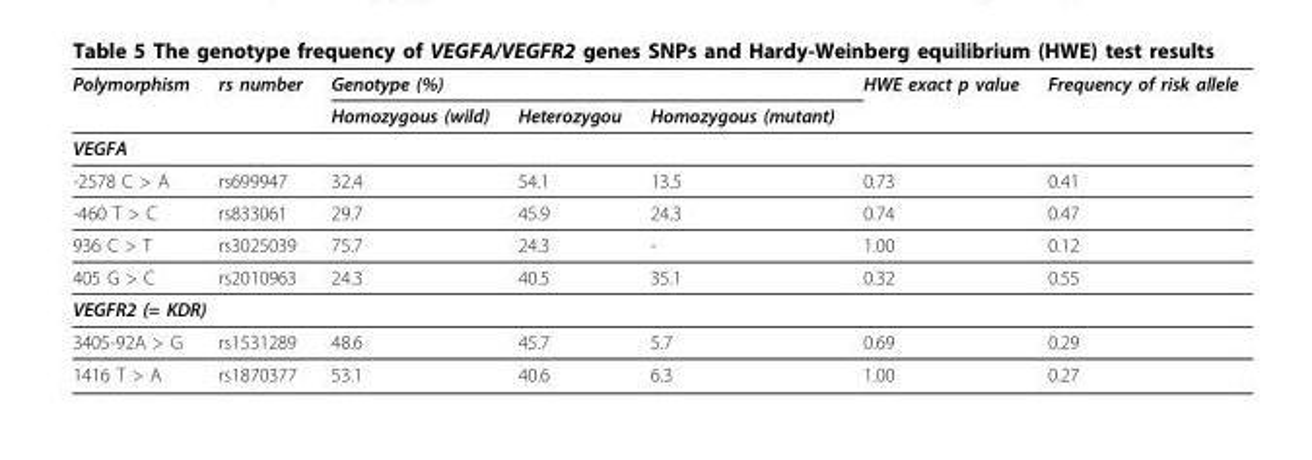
<table><thead><tr><td rowspan="2">Polymorphism</td><td rowspan="2">rs number</td><td colspan="3">Genotype (%)</td><td rowspan="2">HWE exact p value</td><td rowspan="2">Frequency of risk allele</td></tr><tr><td>Homozygous (wild)</td><td>Heterozygou</td><td>Homozygous (mutant)</td></tr></thead><tbody><tr><td colspan="7">VEGFA</td></tr><tr><td>-2578 C &gt; A</td><td>rs699947</td><td>32.4</td><td>54.1</td><td>13.5</td><td>0.73</td><td>0.41</td></tr><tr><td>-460 T &gt; C</td><td>rs833061</td><td>29.7</td><td>45.9</td><td>24.3</td><td>0.74</td><td>0.47</td></tr><tr><td>936 C &gt; T</td><td>rs3025039</td><td>75.7</td><td>24.3</td><td>-</td><td>1.00</td><td>0.12</td></tr><tr><td>405 G &gt; C</td><td>rs2010963</td><td>24.3</td><td>40.5</td><td>35.1</td><td>0.32</td><td>0.55</td></tr><tr><td colspan="7">VEGFR2 (= KDR)</td></tr><tr><td>3405-92A &gt; G</td><td>rs1531289</td><td>48.6</td><td>45.7</td><td>5.7</td><td>0.69</td><td>0.29</td></tr><tr><td>1416 T &gt; A</td><td>rs1870377</td><td>53.1</td><td>40.6</td><td>6.3</td><td>1.00</td><td>0.27</td></tr></tbody></table>